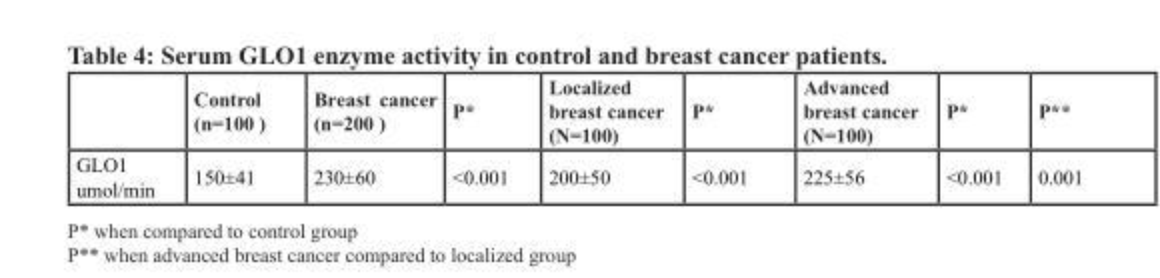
<table><thead><tr><td></td><td>Control (n=100 )</td><td>Breast cancer (n=200 )</td><td>P*</td><td>Localized breast cancer (N=100)</td><td>P*</td><td>Advanced breast cancer (N=100)</td><td>P*</td><td>P**</td></tr></thead><tbody><tr><td>GLO1 umol/min</td><td>150±41</td><td>230±60</td><td>&lt;0.001</td><td>200±50</td><td>&lt;0.001</td><td>225±56</td><td>&lt;0.001</td><td>0.001</td></tr></tbody></table>